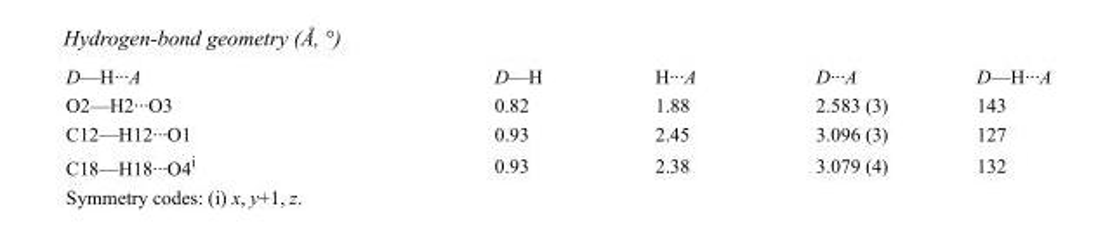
<table><tbody><tr><td>D—H···A</td><td>D—H</td><td>H···A</td><td>D···A</td><td>D—H···A</td></tr><tr><td>O2—H2···O3</td><td>0.82</td><td>1.88</td><td>2.583 (3)</td><td>143</td></tr><tr><td>C12—H12···O1</td><td>0.93</td><td>2.45</td><td>3.096 (3)</td><td>127</td></tr><tr><td>C18—H18···O4<sup>i</sup></td><td>0.93</td><td>2.38</td><td>3.079 (4)</td><td>132</td></tr></tbody></table>